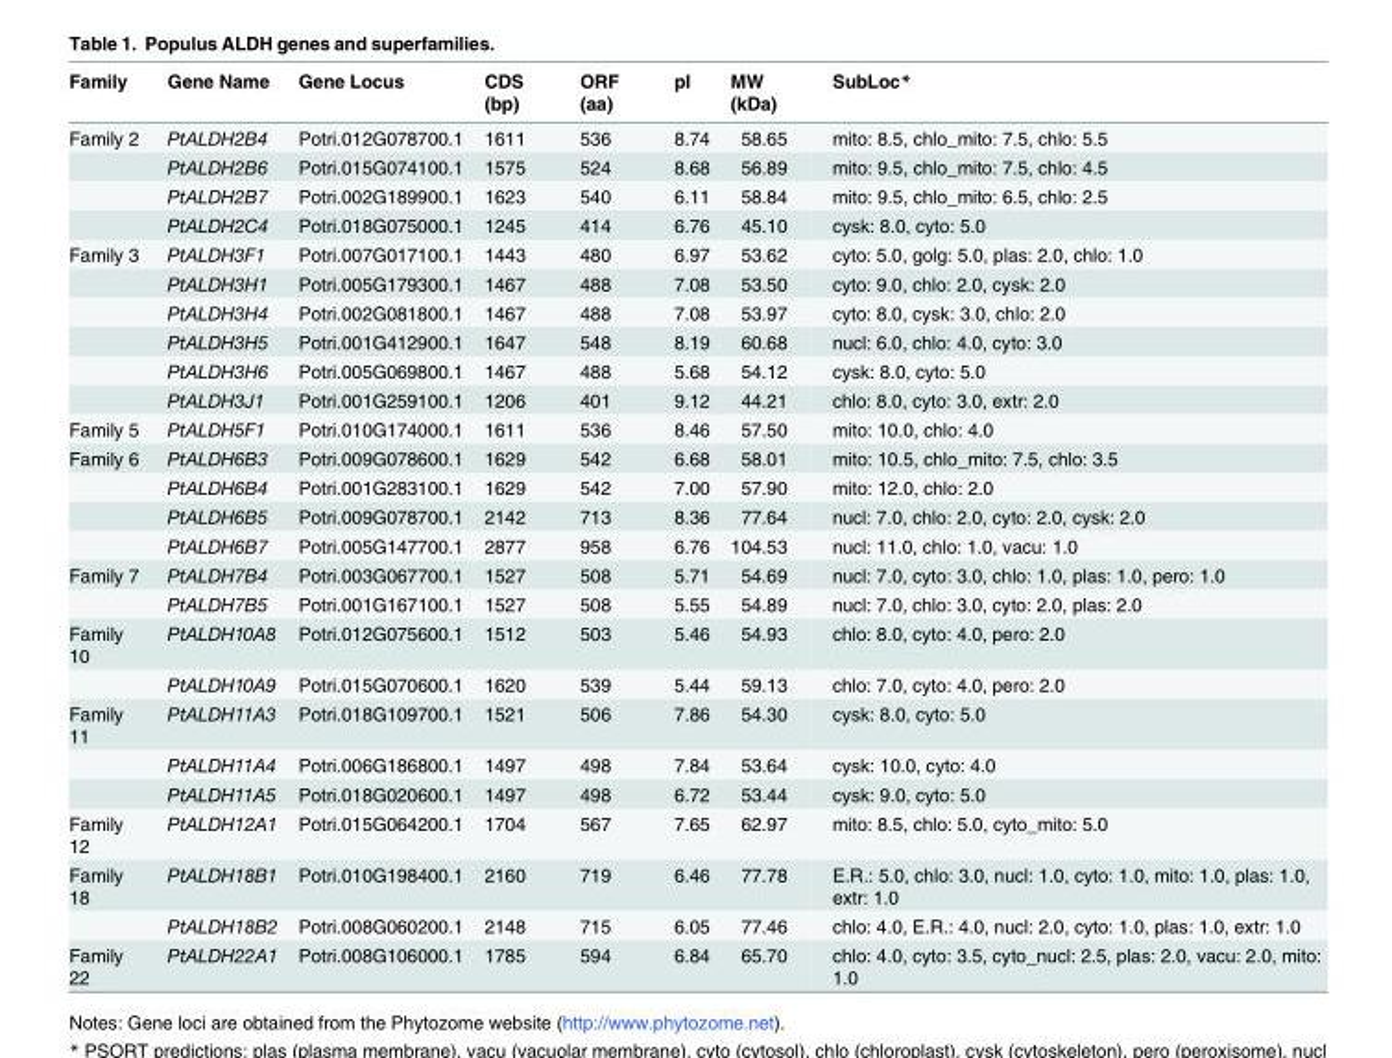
<table><thead><tr><td>Family</td><td>Gene Name</td><td>Gene Locus</td><td>CDS (bp)</td><td>ORF (aa)</td><td>pI</td><td>MW (kDa)</td><td>SubLoc*</td></tr></thead><tbody><tr><td rowspan="4">Family 2</td><td>PtALDH2B4</td><td>Potri.012G078700.1</td><td>1611</td><td>536</td><td>8.74</td><td>58.65</td><td>mito: 8.5, chlo_mito: 7.5, chlo: 5.5</td></tr><tr><td>PtALDH2B6</td><td>Potri.015G074100.1</td><td>1575</td><td>524</td><td>8.68</td><td>56.89</td><td>mito: 9.5, chlo_mito: 7.5, chlo: 4.5</td></tr><tr><td>PtALDH2B7</td><td>Potri.002G189900.1</td><td>1623</td><td>540</td><td>6.11</td><td>58.84</td><td>mito: 9.5, chlo_mito: 6.5, chlo: 2.5</td></tr><tr><td>PtALDH2C4</td><td>Potri.018G075000.1</td><td>1245</td><td>414</td><td>6.76</td><td>45.10</td><td>cysk: 8.0, cyto: 5.0</td></tr><tr><td rowspan="6">Family 3</td><td>PtALDH3F1</td><td>Potri.007G017100.1</td><td>1443</td><td>480</td><td>6.97</td><td>53.62</td><td>cyto: 5.0, golg: 5.0, plas: 2.0, chlo: 1.0</td></tr><tr><td>PtALDH3H1</td><td>Potri.005G179300.1</td><td>1467</td><td>488</td><td>7.08</td><td>53.50</td><td>cyto: 9.0, chlo: 2.0, cysk: 2.0</td></tr><tr><td>PtALDH3H4</td><td>Potri.002G081800.1</td><td>1467</td><td>488</td><td>7.08</td><td>53.97</td><td>cyto: 8.0, cysk: 3.0, chlo: 2.0</td></tr><tr><td>PtALDH3H5</td><td>Potri.001G412900.1</td><td>1647</td><td>548</td><td>8.19</td><td>60.68</td><td>nucl: 6.0, chlo: 4.0, cyto: 3.0</td></tr><tr><td>PtALDH3H6</td><td>Potri.005G069800.1</td><td>1467</td><td>488</td><td>5.68</td><td>54.12</td><td>cysk: 8.0, cyto: 5.0</td></tr><tr><td>PtALDH3J1</td><td>Potri.001G259100.1</td><td>1206</td><td>401</td><td>9.12</td><td>44.21</td><td>chlo: 8.0, cyto: 3.0, extr: 2.0</td></tr><tr><td>Family 5</td><td>PtALDH5F1</td><td>Potri.010G174000.1</td><td>1611</td><td>536</td><td>8.46</td><td>57.50</td><td>mito: 10.0, chlo: 4.0</td></tr><tr><td rowspan="4">Family 6</td><td>PtALDH6B3</td><td>Potri.009G078600.1</td><td>1629</td><td>542</td><td>6.68</td><td>58.01</td><td>mito: 10.5, chlo_mito: 7.5, chlo: 3.5</td></tr><tr><td>PtALDH6B4</td><td>Potri.001G283100.1</td><td>1629</td><td>542</td><td>7.00</td><td>57.90</td><td>mito: 12.0, chlo: 2.0</td></tr><tr><td>PtALDH6B5</td><td>Potri.009G078700.1</td><td>2142</td><td>713</td><td>8.36</td><td>77.64</td><td>nucl: 7.0, chlo: 2.0, cyto: 2.0, cysk: 2.0</td></tr><tr><td>PtALDH6B7</td><td>Potri.005G147700.1</td><td>2877</td><td>958</td><td>6.76</td><td>104.53</td><td>nucl: 11.0, chlo: 1.0, vacu: 1.0</td></tr><tr><td rowspan="2">Family 7</td><td>PtALDH7B4</td><td>Potri.003G067700.1</td><td>1527</td><td>508</td><td>5.71</td><td>54.69</td><td>nucl: 7.0, cyto: 3.0, chlo: 1.0, plas: 1.0, pero: 1.0</td></tr><tr><td>PtALDH7B5</td><td>Potri.001G167100.1</td><td>1527</td><td>508</td><td>5.55</td><td>54.89</td><td>nucl: 7.0, chlo: 3.0, cyto: 2.0, plas: 2.0</td></tr><tr><td rowspan="2">Family 10</td><td>PtALDH10A8</td><td>Potri.012G075600.1</td><td>1512</td><td>503</td><td>5.46</td><td>54.93</td><td>chlo: 8.0, cyto: 4.0, pero: 2.0</td></tr><tr><td>PtALDH10A9</td><td>Potri.015G070600.1</td><td>1620</td><td>539</td><td>5.44</td><td>59.13</td><td>chlo: 7.0, cyto: 4.0, pero: 2.0</td></tr><tr><td rowspan="3">Family 11</td><td>PtALDH11A3</td><td>Potri.018G109700.1</td><td>1521</td><td>506</td><td>7.86</td><td>54.30</td><td>cysk: 8.0, cyto: 5.0</td></tr><tr><td>PtALDH11A4</td><td>Potri.006G186800.1</td><td>1497</td><td>498</td><td>7.84</td><td>53.64</td><td>cysk: 10.0, cyto: 4.0</td></tr><tr><td>PtALDH11A5</td><td>Potri.018G020600.1</td><td>1497</td><td>498</td><td>6.72</td><td>53.44</td><td>cysk: 9.0, cyto: 5.0</td></tr><tr><td>Family 12</td><td>PtALDH12A1</td><td>Potri.015G064200.1</td><td>1704</td><td>567</td><td>7.65</td><td>62.97</td><td>mito: 8.5, chlo: 5.0, cyto_mito: 5.0</td></tr><tr><td rowspan="2">Family 18</td><td>PtALDH18B1</td><td>Potri.010G198400.1</td><td>2160</td><td>719</td><td>6.46</td><td>77.78</td><td>E.R.: 5.0, chlo: 3.0, nucl: 1.0, cyto: 1.0, mito: 1.0, plas: 1.0, extr: 1.0</td></tr><tr><td>PtALDH18B2</td><td>Potri.008G060200.1</td><td>2148</td><td>715</td><td>6.05</td><td>77.46</td><td>chlo: 4.0, E.R.: 4.0, nucl: 2.0, cyto: 1.0, plas: 1.0, extr: 1.0</td></tr><tr><td>Family 22</td><td>PtALDH22A1</td><td>Potri.008G106000.1</td><td>1785</td><td>594</td><td>6.84</td><td>65.70</td><td>chlo: 4.0, cyto: 3.5, cyto_nucl: 2.5, plas: 2.0, vacu: 2.0, mito: 1.0</td></tr></tbody></table>